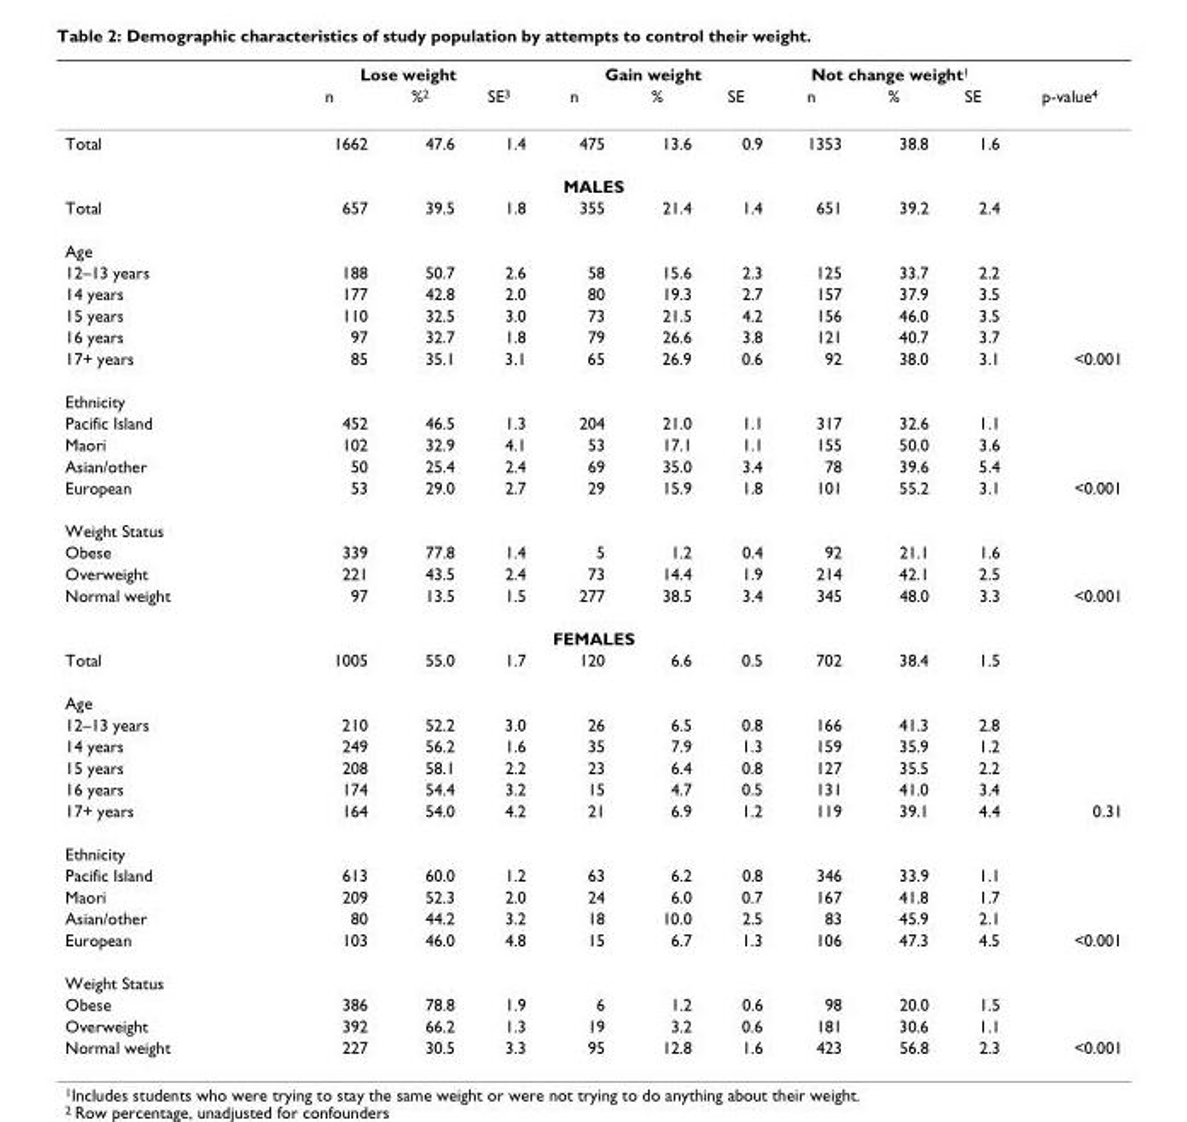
<table><thead><tr><td rowspan="2"></td><td colspan="3">Lose weight</td><td colspan="3">Gain weight</td><td colspan="3">Not change weight<sup>1</sup></td><td rowspan="2">p-value<sup>4</sup></td></tr><tr><td>n</td><td>%<sup>2</sup></td><td>SE<sup>3</sup></td><td>n</td><td>%</td><td>SE</td><td>n</td><td>%</td><td>SE</td></tr></thead><tbody><tr><td>Total</td><td>1662</td><td>47.6</td><td>1.4</td><td>475</td><td>13.6</td><td>0.9</td><td>1353</td><td>38.8</td><td>1.6</td><td></td></tr><tr><td colspan="11">MALES</td></tr><tr><td>Total</td><td>657</td><td>39.5</td><td>1.8</td><td>355</td><td>21.4</td><td>1.4</td><td>651</td><td>39.2</td><td>2.4</td><td></td></tr><tr><td colspan="11">Age</td></tr><tr><td>12–13 years</td><td>188</td><td>50.7</td><td>2.6</td><td>58</td><td>15.6</td><td>2.3</td><td>125</td><td>33.7</td><td>2.2</td><td></td></tr><tr><td>14 years</td><td>177</td><td>42.8</td><td>2.0</td><td>80</td><td>19.3</td><td>2.7</td><td>157</td><td>37.9</td><td>3.5</td><td></td></tr><tr><td>15 years</td><td>110</td><td>32.5</td><td>3.0</td><td>73</td><td>21.5</td><td>4.2</td><td>156</td><td>46.0</td><td>3.5</td><td></td></tr><tr><td>16 years</td><td>97</td><td>32.7</td><td>1.8</td><td>79</td><td>26.6</td><td>3.8</td><td>121</td><td>40.7</td><td>3.7</td><td></td></tr><tr><td>17+ years</td><td>85</td><td>35.1</td><td>3.1</td><td>65</td><td>26.9</td><td>0.6</td><td>92</td><td>38.0</td><td>3.1</td><td>&lt;0.001</td></tr><tr><td colspan="11">Ethnicity</td></tr><tr><td>Pacific Island</td><td>452</td><td>46.5</td><td>1.3</td><td>204</td><td>21.0</td><td>1.1</td><td>317</td><td>32.6</td><td>1.1</td><td></td></tr><tr><td>Maori</td><td>102</td><td>32.9</td><td>4.1</td><td>53</td><td>17.1</td><td>1.1</td><td>155</td><td>50.0</td><td>3.6</td><td></td></tr><tr><td>Asian/other</td><td>50</td><td>25.4</td><td>2.4</td><td>69</td><td>35.0</td><td>3.4</td><td>78</td><td>39.6</td><td>5.4</td><td></td></tr><tr><td>European</td><td>53</td><td>29.0</td><td>2.7</td><td>29</td><td>15.9</td><td>1.8</td><td>101</td><td>55.2</td><td>3.1</td><td>&lt;0.001</td></tr><tr><td colspan="11">Weight Status</td></tr><tr><td>Obese</td><td>339</td><td>77.8</td><td>1.4</td><td>5</td><td>1.2</td><td>0.4</td><td>92</td><td>21.1</td><td>1.6</td><td></td></tr><tr><td>Overweight</td><td>221</td><td>43.5</td><td>2.4</td><td>73</td><td>14.4</td><td>1.9</td><td>214</td><td>42.1</td><td>2.5</td><td></td></tr><tr><td>Normal weight</td><td>97</td><td>13.5</td><td>1.5</td><td>277</td><td>38.5</td><td>3.4</td><td>345</td><td>48.0</td><td>3.3</td><td>&lt;0.001</td></tr><tr><td colspan="11">FEMALES</td></tr><tr><td>Total</td><td>1005</td><td>55.0</td><td>1.7</td><td>120</td><td>6.6</td><td>0.5</td><td>702</td><td>38.4</td><td>1.5</td><td></td></tr><tr><td colspan="11">Age</td></tr><tr><td>12–13 years</td><td>210</td><td>52.2</td><td>3.0</td><td>26</td><td>6.5</td><td>0.8</td><td>166</td><td>41.3</td><td>2.8</td><td></td></tr><tr><td>14 years</td><td>249</td><td>56.2</td><td>1.6</td><td>35</td><td>7.9</td><td>1.3</td><td>159</td><td>35.9</td><td>1.2</td><td></td></tr><tr><td>15 years</td><td>208</td><td>58.1</td><td>2.2</td><td>23</td><td>6.4</td><td>0.8</td><td>127</td><td>35.5</td><td>2.2</td><td></td></tr><tr><td>16 years</td><td>174</td><td>54.4</td><td>3.2</td><td>15</td><td>4.7</td><td>0.5</td><td>131</td><td>41.0</td><td>3.4</td><td></td></tr><tr><td>17+ years</td><td>164</td><td>54.0</td><td>4.2</td><td>21</td><td>6.9</td><td>1.2</td><td>119</td><td>39.1</td><td>4.4</td><td>0.31</td></tr><tr><td colspan="11">Ethnicity</td></tr><tr><td>Pacific Island</td><td>613</td><td>60.0</td><td>1.2</td><td>63</td><td>6.2</td><td>0.8</td><td>346</td><td>33.9</td><td>1.1</td><td></td></tr><tr><td>Maori</td><td>209</td><td>52.3</td><td>2.0</td><td>24</td><td>6.0</td><td>0.7</td><td>167</td><td>41.8</td><td>1.7</td><td></td></tr><tr><td>Asian/other</td><td>80</td><td>44.2</td><td>3.2</td><td>18</td><td>10.0</td><td>2.5</td><td>83</td><td>45.9</td><td>2.1</td><td></td></tr><tr><td>European</td><td>103</td><td>46.0</td><td>4.8</td><td>15</td><td>6.7</td><td>1.3</td><td>106</td><td>47.3</td><td>4.5</td><td>&lt;0.001</td></tr><tr><td colspan="11">Weight Status</td></tr><tr><td>Obese</td><td>386</td><td>78.8</td><td>1.9</td><td>6</td><td>1.2</td><td>0.6</td><td>98</td><td>20.0</td><td>1.5</td><td></td></tr><tr><td>Overweight</td><td>392</td><td>66.2</td><td>1.3</td><td>19</td><td>3.2</td><td>0.6</td><td>181</td><td>30.6</td><td>1.1</td><td></td></tr><tr><td>Normal weight</td><td>227</td><td>30.5</td><td>3.3</td><td>95</td><td>12.8</td><td>1.6</td><td>423</td><td>56.8</td><td>2.3</td><td>&lt;0.001</td></tr></tbody></table>